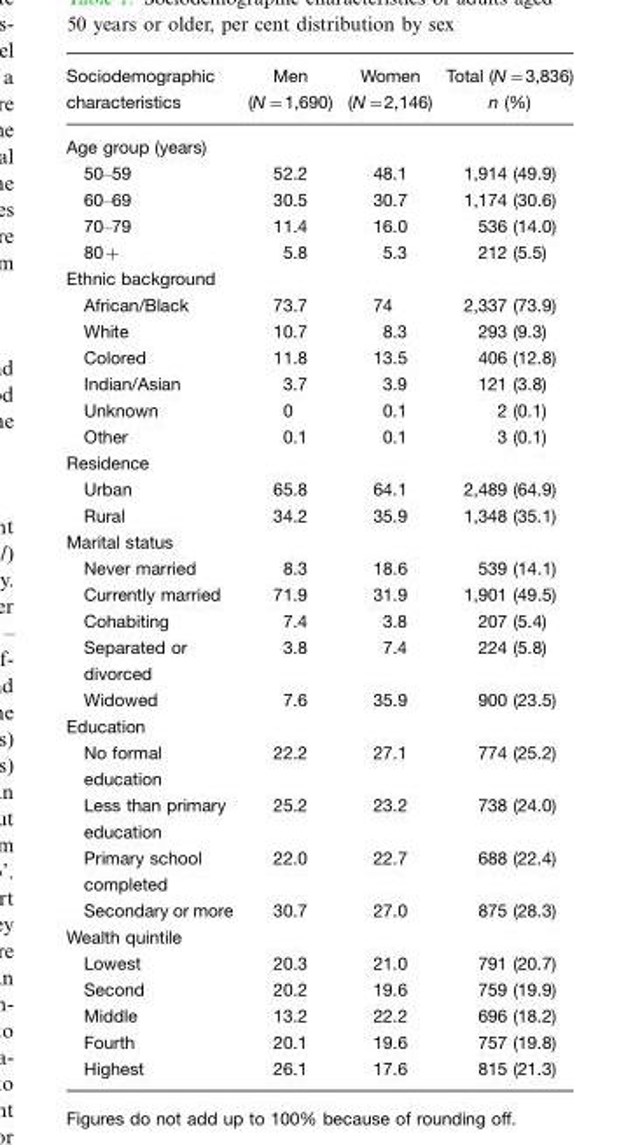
<table><thead><tr><td>Sociodemographic characteristics</td><td>Men (N=1,690)</td><td>Women (N=2,146)</td><td>Total (N=3,836) n (%)</td></tr></thead><tbody><tr><td colspan="4">Age group (years)</td></tr><tr><td>50–59</td><td>52.2</td><td>48.1</td><td>1,914 (49.9)</td></tr><tr><td>60–69</td><td>30.5</td><td>30.7</td><td>1,174 (30.6)</td></tr><tr><td>70–79</td><td>11.4</td><td>16.0</td><td>536 (14.0)</td></tr><tr><td>80+</td><td>5.8</td><td>5.3</td><td>212 (5.5)</td></tr><tr><td colspan="4">Ethnic background</td></tr><tr><td>African/Black</td><td>73.7</td><td>74</td><td>2,337 (73.9)</td></tr><tr><td>White</td><td>10.7</td><td>8.3</td><td>293 (9.3)</td></tr><tr><td>Colored</td><td>11.8</td><td>13.5</td><td>406 (12.8)</td></tr><tr><td>Indian/Asian</td><td>3.7</td><td>3.9</td><td>121 (3.8)</td></tr><tr><td>Unknown</td><td>0</td><td>0.1</td><td>2 (0.1)</td></tr><tr><td>Other</td><td>0.1</td><td>0.1</td><td>3 (0.1)</td></tr><tr><td colspan="4">Residence</td></tr><tr><td>Urban</td><td>65.8</td><td>64.1</td><td>2,489 (64.9)</td></tr><tr><td>Rural</td><td>34.2</td><td>35.9</td><td>1,348 (35.1)</td></tr><tr><td colspan="4">Marital status</td></tr><tr><td>Never married</td><td>8.3</td><td>18.6</td><td>539 (14.1)</td></tr><tr><td>Currently married</td><td>71.9</td><td>31.9</td><td>1,901 (49.5)</td></tr><tr><td>Cohabiting</td><td>7.4</td><td>3.8</td><td>207 (5.4)</td></tr><tr><td>Separated or divorced</td><td>3.8</td><td>7.4</td><td>224 (5.8)</td></tr><tr><td>Widowed</td><td>7.6</td><td>35.9</td><td>900 (23.5)</td></tr><tr><td colspan="4">Education</td></tr><tr><td>No formal education</td><td>22.2</td><td>27.1</td><td>774 (25.2)</td></tr><tr><td>Less than primary education</td><td>25.2</td><td>23.2</td><td>738 (24.0)</td></tr><tr><td>Primary school completed</td><td>22.0</td><td>22.7</td><td>688 (22.4)</td></tr><tr><td>Secondary or more</td><td>30.7</td><td>27.0</td><td>875 (28.3)</td></tr><tr><td colspan="4">Wealth quintile</td></tr><tr><td>Lowest</td><td>20.3</td><td>21.0</td><td>791 (20.7)</td></tr><tr><td>Second</td><td>20.2</td><td>19.6</td><td>759 (19.9)</td></tr><tr><td>Middle</td><td>13.2</td><td>22.2</td><td>696 (18.2)</td></tr><tr><td>Fourth</td><td>20.1</td><td>19.6</td><td>757 (19.8)</td></tr><tr><td>Highest</td><td>26.1</td><td>17.6</td><td>815 (21.3)</td></tr></tbody></table>